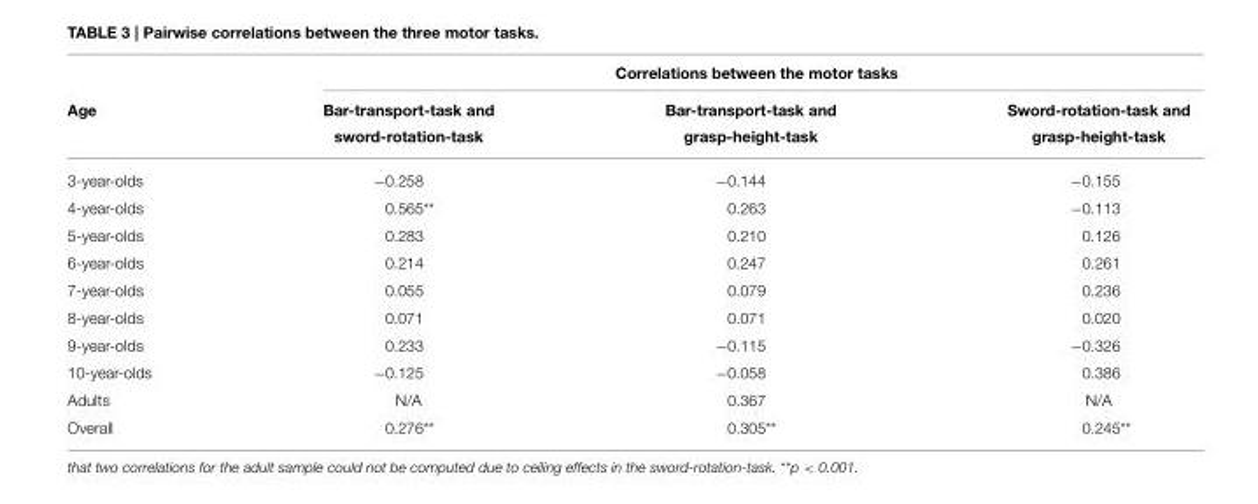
<table><thead><tr><td rowspan="2">Age</td><td colspan="3">Correlations between the motor tasks</td></tr><tr><td>Bar-transport-task and sword-rotation-task</td><td>Bar-transport-task and grasp-height-task</td><td>Sword-rotation-task and grasp-height-task</td></tr></thead><tbody><tr><td>3-year-olds</td><td>−0.258</td><td>−0.144</td><td>−0.155</td></tr><tr><td>4-year-olds</td><td>0.565**</td><td>0.263</td><td>−0.113</td></tr><tr><td>5-year-olds</td><td>0.283</td><td>0.210</td><td>0.126</td></tr><tr><td>6-year-olds</td><td>0.214</td><td>0.247</td><td>0.261</td></tr><tr><td>7-year-olds</td><td>0.055</td><td>0.079</td><td>0.236</td></tr><tr><td>8-year-olds</td><td>0.071</td><td>0.071</td><td>0.020</td></tr><tr><td>9-year-olds</td><td>0.233</td><td>−0.115</td><td>−0.326</td></tr><tr><td>10-year-olds</td><td>−0.125</td><td>−0.058</td><td>0.386</td></tr><tr><td>Adults</td><td>N/A</td><td>0.367</td><td>N/A</td></tr><tr><td>Overall</td><td>0.276**</td><td>0.305**</td><td>0.245**</td></tr></tbody></table>